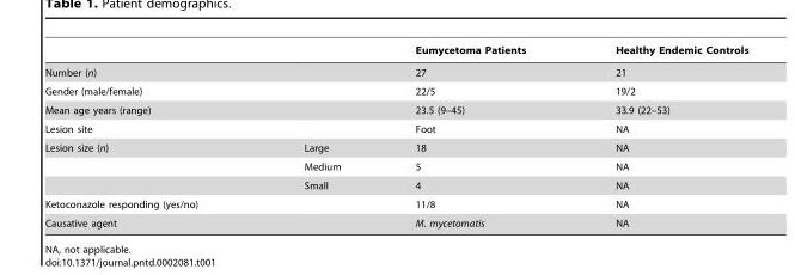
<table><thead><tr><td></td><td></td><td>Eumycetoma Patients</td><td>Healthy Endemic Controls</td></tr></thead><tbody><tr><td>Number (n)</td><td></td><td>27</td><td>21</td></tr><tr><td>Gender (male/female)</td><td></td><td>22/5</td><td>19/2</td></tr><tr><td>Mean age years (range)</td><td></td><td>23.5 (9–45)</td><td>33.9 (22–53)</td></tr><tr><td>Lesion site</td><td></td><td>Foot</td><td>NA</td></tr><tr><td rowspan="3">Lesion size (n)</td><td>Large</td><td>18</td><td>NA</td></tr><tr><td>Medium</td><td>5</td><td>NA</td></tr><tr><td>Small</td><td>4</td><td>NA</td></tr><tr><td>Ketoconazole responding (yes/no)</td><td></td><td>11/8</td><td>NA</td></tr><tr><td>Causative agent</td><td></td><td>M. mycetomatis</td><td>NA</td></tr></tbody></table>